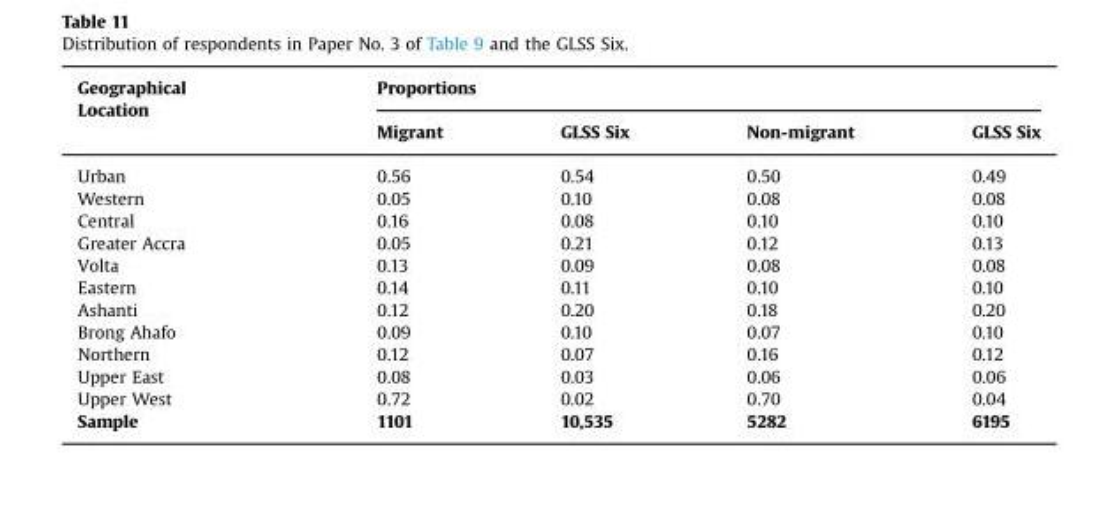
<table><thead><tr><td rowspan="2">Geographical Location</td><td colspan="4">Proportions</td></tr><tr><td>Migrant</td><td>GLSS Six</td><td>Non-migrant</td><td>GLSS Six</td></tr></thead><tbody><tr><td>Urban</td><td>0.56</td><td>0.54</td><td>0.50</td><td>0.49</td></tr><tr><td>Western</td><td>0.05</td><td>0.10</td><td>0.08</td><td>0.08</td></tr><tr><td>Central</td><td>0.16</td><td>0.08</td><td>0.10</td><td>0.10</td></tr><tr><td>Greater Accra</td><td>0.05</td><td>0.21</td><td>0.12</td><td>0.13</td></tr><tr><td>Volta</td><td>0.13</td><td>0.09</td><td>0.08</td><td>0.08</td></tr><tr><td>Eastern</td><td>0.14</td><td>0.11</td><td>0.10</td><td>0.10</td></tr><tr><td>Ashanti</td><td>0.12</td><td>0.20</td><td>0.18</td><td>0.20</td></tr><tr><td>Brong Ahafo</td><td>0.09</td><td>0.10</td><td>0.07</td><td>0.10</td></tr><tr><td>Northern</td><td>0.12</td><td>0.07</td><td>0.16</td><td>0.12</td></tr><tr><td>Upper East</td><td>0.08</td><td>0.03</td><td>0.06</td><td>0.06</td></tr><tr><td>Upper West</td><td>0.72</td><td>0.02</td><td>0.70</td><td>0.04</td></tr><tr><td>Sample</td><td>1101</td><td>10,535</td><td>5282</td><td>6195</td></tr></tbody></table>